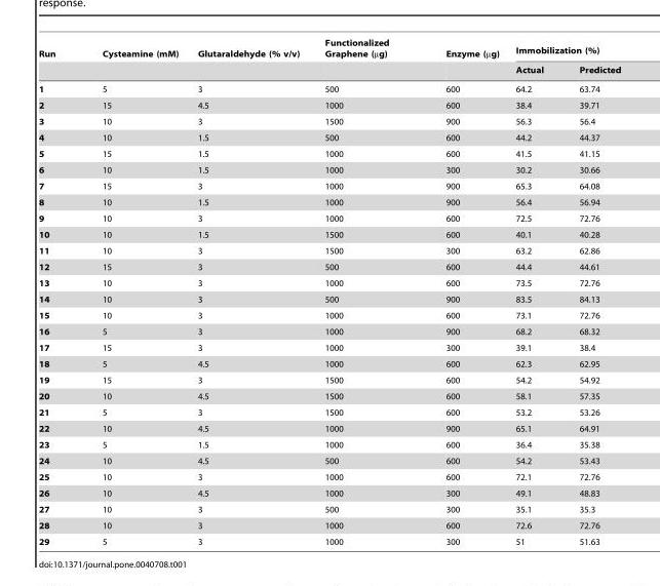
<table><thead><tr><td rowspan="2">Run</td><td rowspan="2">Cysteamine (mM)</td><td rowspan="2">Glutaraldehyde (% v/v)</td><td rowspan="2">Functionalized Graphene (µg)</td><td rowspan="2">Enzyme (µg)</td><td colspan="2">Immobilization (%)</td></tr><tr><td>Actual</td><td>Predicted</td></tr></thead><tbody><tr><td>1</td><td>5</td><td>3</td><td>500</td><td>600</td><td>64.2</td><td>63.74</td></tr><tr><td>2</td><td>15</td><td>4.5</td><td>1000</td><td>600</td><td>38.4</td><td>39.71</td></tr><tr><td>3</td><td>10</td><td>3</td><td>1500</td><td>900</td><td>56.3</td><td>56.4</td></tr><tr><td>4</td><td>10</td><td>1.5</td><td>500</td><td>600</td><td>44.2</td><td>44.37</td></tr><tr><td>5</td><td>15</td><td>1.5</td><td>1000</td><td>600</td><td>41.5</td><td>41.15</td></tr><tr><td>6</td><td>10</td><td>1.5</td><td>1000</td><td>300</td><td>30.2</td><td>30.66</td></tr><tr><td>7</td><td>15</td><td>3</td><td>1000</td><td>900</td><td>65.3</td><td>64.08</td></tr><tr><td>8</td><td>10</td><td>1.5</td><td>1000</td><td>900</td><td>56.4</td><td>56.94</td></tr><tr><td>9</td><td>10</td><td>3</td><td>1000</td><td>600</td><td>72.5</td><td>72.76</td></tr><tr><td>10</td><td>10</td><td>1.5</td><td>1500</td><td>600</td><td>40.1</td><td>40.28</td></tr><tr><td>11</td><td>10</td><td>3</td><td>1500</td><td>300</td><td>63.2</td><td>62.86</td></tr><tr><td>12</td><td>15</td><td>3</td><td>500</td><td>600</td><td>44.4</td><td>44.61</td></tr><tr><td>13</td><td>10</td><td>3</td><td>1000</td><td>600</td><td>73.5</td><td>72.76</td></tr><tr><td>14</td><td>10</td><td>3</td><td>500</td><td>900</td><td>83.5</td><td>84.13</td></tr><tr><td>15</td><td>10</td><td>3</td><td>1000</td><td>600</td><td>73.1</td><td>72.76</td></tr><tr><td>16</td><td>5</td><td>3</td><td>1000</td><td>900</td><td>68.2</td><td>68.32</td></tr><tr><td>17</td><td>15</td><td>3</td><td>1000</td><td>300</td><td>39.1</td><td>38.4</td></tr><tr><td>18</td><td>5</td><td>4.5</td><td>1000</td><td>600</td><td>62.3</td><td>62.95</td></tr><tr><td>19</td><td>15</td><td>3</td><td>1500</td><td>600</td><td>54.2</td><td>54.92</td></tr><tr><td>20</td><td>10</td><td>4.5</td><td>1500</td><td>600</td><td>58.1</td><td>57.35</td></tr><tr><td>21</td><td>5</td><td>3</td><td>1500</td><td>600</td><td>53.2</td><td>53.26</td></tr><tr><td>22</td><td>10</td><td>4.5</td><td>1000</td><td>900</td><td>65.1</td><td>64.91</td></tr><tr><td>23</td><td>5</td><td>1.5</td><td>1000</td><td>600</td><td>36.4</td><td>35.38</td></tr><tr><td>24</td><td>10</td><td>4.5</td><td>500</td><td>600</td><td>54.2</td><td>53.43</td></tr><tr><td>25</td><td>10</td><td>3</td><td>1000</td><td>600</td><td>72.1</td><td>72.76</td></tr><tr><td>26</td><td>10</td><td>4.5</td><td>1000</td><td>300</td><td>49.1</td><td>48.83</td></tr><tr><td>27</td><td>10</td><td>3</td><td>500</td><td>300</td><td>35.1</td><td>35.3</td></tr><tr><td>28</td><td>10</td><td>3</td><td>1000</td><td>600</td><td>72.6</td><td>72.76</td></tr><tr><td>29</td><td>5</td><td>3</td><td>1000</td><td>300</td><td>51</td><td>51.63</td></tr></tbody></table>